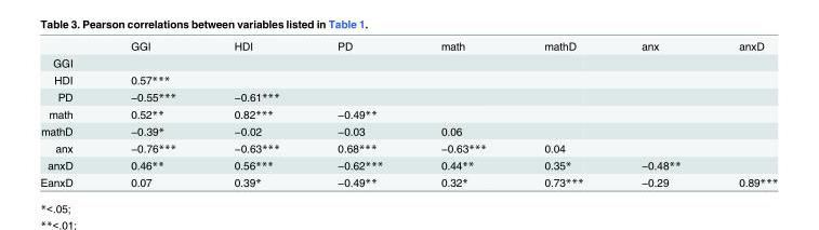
<table><thead><tr><td></td><td>GGI</td><td>HDI</td><td>PD</td><td>math</td><td>mathD</td><td>anx</td><td>anxD</td></tr></thead><tbody><tr><td colspan="8">GGI</td></tr><tr><td>HDI</td><td>0.57***</td><td></td><td></td><td></td><td></td><td></td><td></td></tr><tr><td>PD</td><td>−0.55***</td><td>−0.61***</td><td></td><td></td><td></td><td></td><td></td></tr><tr><td>math</td><td>0.52**</td><td>0.82***</td><td>−0.49**</td><td></td><td></td><td></td><td></td></tr><tr><td>mathD</td><td>−0.39*</td><td>−0.02</td><td>−0.03</td><td>0.06</td><td></td><td></td><td></td></tr><tr><td>anx</td><td>−0.76***</td><td>−0.63***</td><td>0.68***</td><td>−0.63***</td><td>0.04</td><td></td><td></td></tr><tr><td>anxD</td><td>0.46**</td><td>0.56***</td><td>−0.62***</td><td>0.44**</td><td>0.35*</td><td>−0.48**</td><td></td></tr><tr><td>EanxD</td><td>0.07</td><td>0.39*</td><td>−0.49**</td><td>0.32*</td><td>0.73***</td><td>−0.29</td><td>0.89***</td></tr></tbody></table>